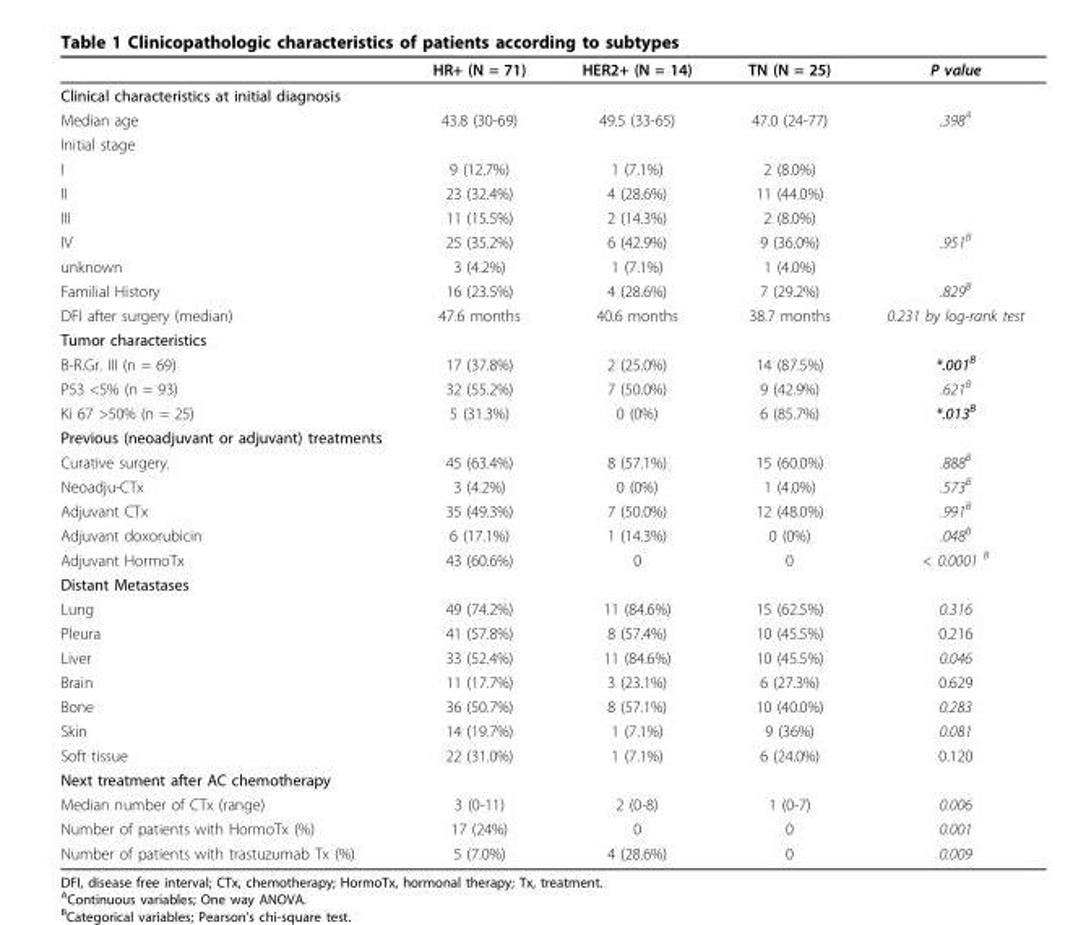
<table><thead><tr><td></td><td>HR+ (N = 71)</td><td>HER2+ (N = 14)</td><td>TN (N = 25)</td><td>P value</td></tr></thead><tbody><tr><td colspan="5">Clinical characteristics at initial diagnosis</td></tr><tr><td>Median age</td><td>43.8 (30-69)</td><td>49.5 (33-65)</td><td>47.0 (24-77)</td><td>.398<sup>A</sup></td></tr><tr><td colspan="5">Initial stage</td></tr><tr><td>I</td><td>9 (12.7%)</td><td>1 (7.1%)</td><td>2 (8.0%)</td><td></td></tr><tr><td>II</td><td>23 (32.4%)</td><td>4 (28.6%)</td><td>11 (44.0%)</td><td></td></tr><tr><td>III</td><td>11 (15.5%)</td><td>2 (14.3%)</td><td>2 (8.0%)</td><td></td></tr><tr><td>IV</td><td>25 (35.2%)</td><td>6 (42.9%)</td><td>9 (36.0%)</td><td>.951<sup>B</sup></td></tr><tr><td>unknown</td><td>3 (4.2%)</td><td>1 (7.1%)</td><td>1 (4.0%)</td><td></td></tr><tr><td>Familial History</td><td>16 (23.5%)</td><td>4 (28.6%)</td><td>7 (29.2%)</td><td>.829<sup>B</sup></td></tr><tr><td>DFI after surgery (median)</td><td>47.6 months</td><td>40.6 months</td><td>38.7 months</td><td>0.231 by log-rank test</td></tr><tr><td colspan="5">Tumor characteristics</td></tr><tr><td>B-R.Gr. III (n = 69)</td><td>17 (37.8%)</td><td>2 (25.0%)</td><td>14 (87.5%)</td><td>*.001<sup>B</sup></td></tr><tr><td>P53 &lt;5% (n = 93)</td><td>32 (55.2%)</td><td>7 (50.0%)</td><td>9 (42.9%)</td><td>.621<sup>B</sup></td></tr><tr><td>Ki 67 &gt;50% (n = 25)</td><td>5 (31.3%)</td><td>0 (0%)</td><td>6 (85.7%)</td><td>*.013<sup>B</sup></td></tr><tr><td colspan="5">Previous (neoadjuvant or adjuvant) treatments</td></tr><tr><td>Curative surgery.</td><td>45 (63.4%)</td><td>8 (57.1%)</td><td>15 (60.0%)</td><td>.888<sup>B</sup></td></tr><tr><td>Neoadju-CTx</td><td>3 (4.2%)</td><td>0 (0%)</td><td>1 (4.0%)</td><td>.573<sup>B</sup></td></tr><tr><td>Adjuvant CTx</td><td>35 (49.3%)</td><td>7 (50.0%)</td><td>12 (48.0%)</td><td>.991<sup>B</sup></td></tr><tr><td>Adjuvant doxorubicin</td><td>6 (17.1%)</td><td>1 (14.3%)</td><td>0 (0%)</td><td>.048<sup>B</sup></td></tr><tr><td>Adjuvant HormoTx</td><td>43 (60.6%)</td><td>0</td><td>0</td><td>&lt; 0.0001 <sup>B</sup></td></tr><tr><td colspan="5">Distant Metastases</td></tr><tr><td>Lung</td><td>49 (74.2%)</td><td>11 (84.6%)</td><td>15 (62.5%)</td><td>0.316</td></tr><tr><td>Pleura</td><td>41 (57.8%)</td><td>8 (57.4%)</td><td>10 (45.5%)</td><td>0.216</td></tr><tr><td>Liver</td><td>33 (52.4%)</td><td>11 (84.6%)</td><td>10 (45.5%)</td><td>0.046</td></tr><tr><td>Brain</td><td>11 (17.7%)</td><td>3 (23.1%)</td><td>6 (27.3%)</td><td>0.629</td></tr><tr><td>Bone</td><td>36 (50.7%)</td><td>8 (57.1%)</td><td>10 (40.0%)</td><td>0.283</td></tr><tr><td>Skin</td><td>14 (19.7%)</td><td>1 (7.1%)</td><td>9 (36%)</td><td>0.081</td></tr><tr><td>Soft tissue</td><td>22 (31.0%)</td><td>1 (7.1%)</td><td>6 (24.0%)</td><td>0.120</td></tr><tr><td colspan="5">Next treatment after AC chemotherapy</td></tr><tr><td>Median number of CTx (range)</td><td>3 (0-11)</td><td>2 (0-8)</td><td>1 (0-7)</td><td>0.006</td></tr><tr><td>Number of patients with HormoTx (%)</td><td>17 (24%)</td><td>0</td><td>0</td><td>0.001</td></tr><tr><td>Number of patients with trastuzumab Tx (%)</td><td>5 (7.0%)</td><td>4 (28.6%)</td><td>0</td><td>0.009</td></tr></tbody></table>